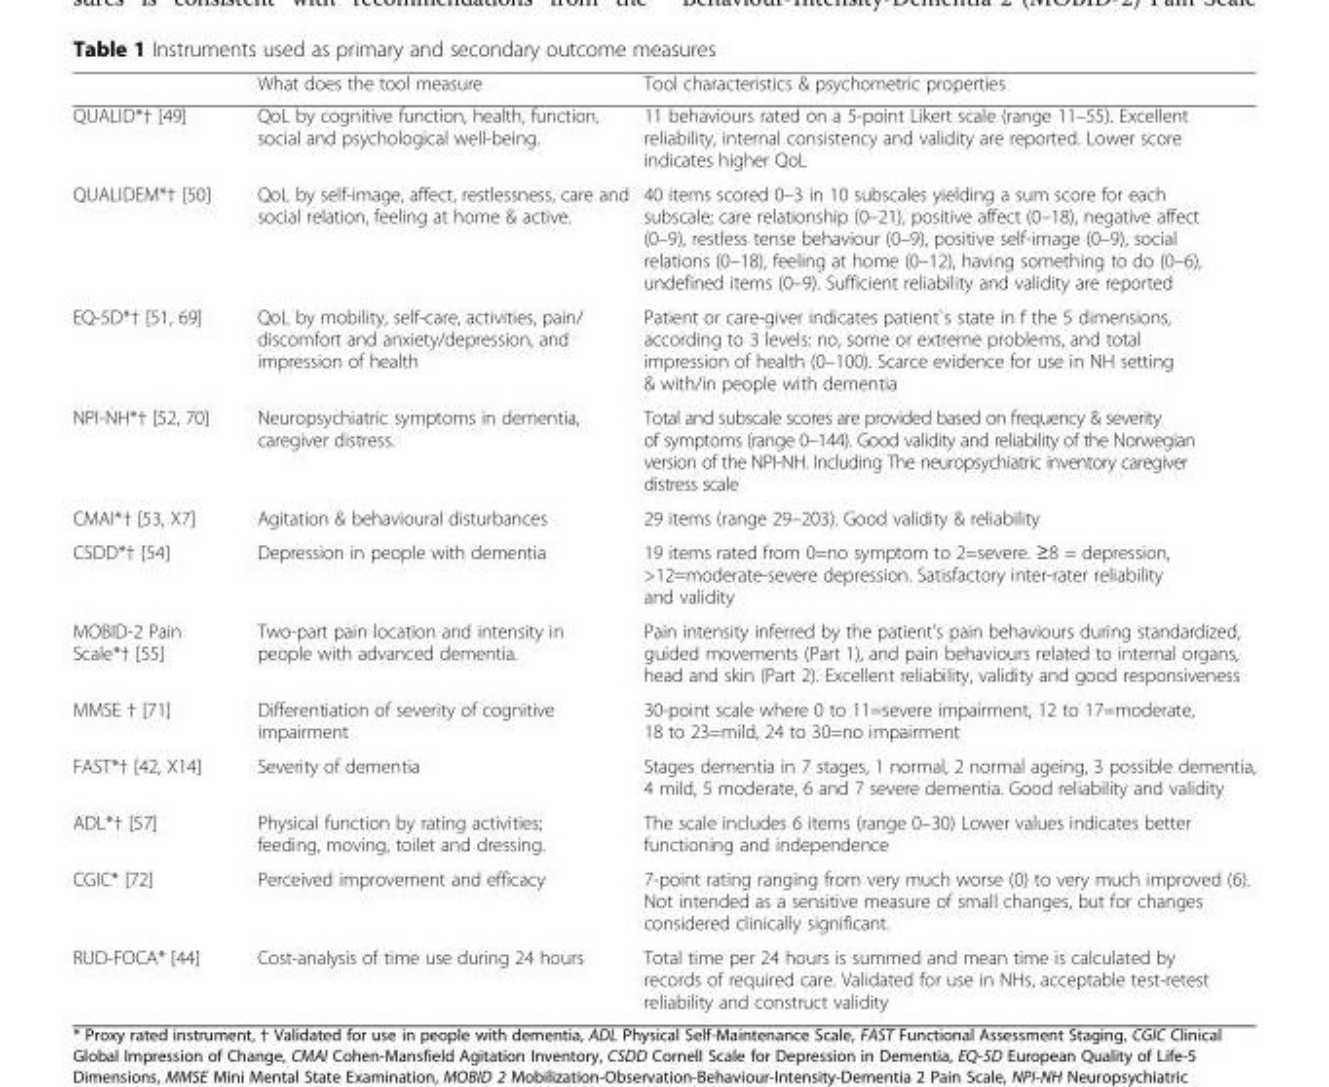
<table><thead><tr><td></td><td>What does the tool measure</td><td>Tool characteristics &amp; psychometric properties</td></tr></thead><tbody><tr><td>QUALID*† [49]</td><td>QoL by cognitive function, health, function, social and psychological well-being.</td><td>11 behaviours rated on a 5-point Likert scale (range 11–55). Excellent reliability, internal consistency and validity are reported. Lower score indicates higher QoL</td></tr><tr><td>QUALIDEM*† [50]</td><td>QoL by self-image, affect, restlessness, care and social relation, feeling at home &amp; active.</td><td>40 items scored 0–3 in 10 subscales yielding a sum score for each subscale; care relationship (0–21), positive affect (0–18), negative affect (0–9), restless tense behaviour (0–9), positive self-image (0–9), social relations (0–18), feeling at home (0–12), having something to do (0–6), undefined items (0–9). Sufficient reliability and validity are reported</td></tr><tr><td>EQ-5D*† [51, 69]</td><td>QoL by mobility, self-care, activities, pain/ discomfort and anxiety/depression, and impression of health</td><td>Patient or care-giver indicates patient`s state in f the 5 dimensions, according to 3 levels: no, some or extreme problems, and total impression of health (0–100). Scarce evidence for use in NH setting &amp; with/in people with dementia</td></tr><tr><td>NPI-NH*† [52, 70]</td><td>Neuropsychiatric symptoms in dementia, caregiver distress.</td><td>Total and subscale scores are provided based on frequency &amp; severity of symptoms (range 0–144). Good validity and reliability of the Norwegian version of the NPI-NH. Including The neuropsychiatric inventory caregiver distress scale</td></tr><tr><td>CMAI*† [53, X7]</td><td>Agitation &amp; behavioural disturbances</td><td>29 items (range 29–203). Good validity &amp; reliability</td></tr><tr><td>CSDD*† [54]</td><td>Depression in people with dementia</td><td>19 items rated from 0=no symptom to 2=severe. ≥8 = depression, &gt;12=moderate-severe depression. Satisfactory inter-rater reliability and validity</td></tr><tr><td>MOBID-2 Pain Scale*† [55]</td><td>Two-part pain location and intensity in people with advanced dementia.</td><td>Pain intensity inferred by the patient’s pain behaviours during standardized, guided movements (Part 1), and pain behaviours related to internal organs, head and skin (Part 2). Excellent reliability, validity and good responsiveness</td></tr><tr><td>MMSE † [71]</td><td>Differentiation of severity of cognitive impairment</td><td>30-point scale where 0 to 11=severe impairment, 12 to 17=moderate, 18 to 23=mild, 24 to 30=no impairment</td></tr><tr><td>FAST*† [42, X14]</td><td>Severity of dementia</td><td>Stages dementia in 7 stages, 1 normal, 2 normal ageing, 3 possible dementia, 4 mild, 5 moderate, 6 and 7 severe dementia. Good reliability and validity</td></tr><tr><td>ADL*† [57]</td><td>Physical function by rating activities; feeding, moving, toilet and dressing.</td><td>The scale includes 6 items (range 0–30) Lower values indicates better functioning and independence</td></tr><tr><td>CGIC* [72]</td><td>Perceived improvement and efficacy</td><td>7-point rating ranging from very much worse (0) to very much improved (6). Not intended as a sensitive measure of small changes, but for changes considered clinically significant.</td></tr><tr><td>RUD-FOCA* [44]</td><td>Cost-analysis of time use during 24 hours</td><td>Total time per 24 hours is summed and mean time is calculated by records of required care. Validated for use in NHs, acceptable test-retest reliability and construct validity</td></tr></tbody></table>